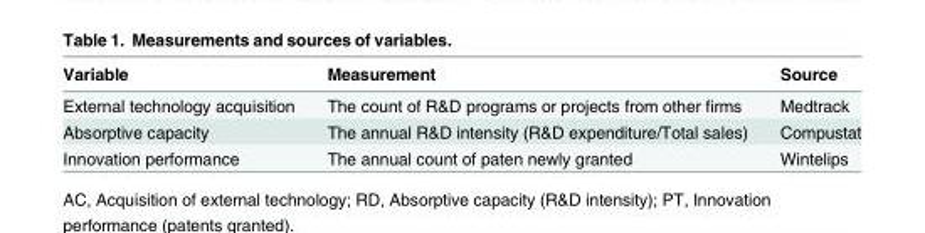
<table><thead><tr><td>Variable</td><td>Measurement</td><td>Source</td></tr></thead><tbody><tr><td>External technology acquisition</td><td>The count of R&amp;D programs or projects from other firms</td><td>Medtrack</td></tr><tr><td>Absorptive capacity</td><td>The annual R&amp;D intensity (R&amp;D expenditure/Total sales)</td><td>Compustat</td></tr><tr><td>Innovation performance</td><td>The annual count of paten newly granted</td><td>Wintelips</td></tr></tbody></table>